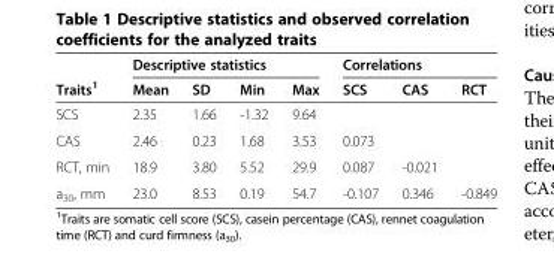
<table><thead><tr><td rowspan="2">Traits<sup>1</sup></td><td colspan="4">Descriptive statistics</td><td colspan="3">Correlations</td></tr><tr><td>Mean</td><td>SD</td><td>Min</td><td>Max</td><td>SCS</td><td>CAS</td><td>RCT</td></tr></thead><tbody><tr><td>SCS</td><td>2.35</td><td>1.66</td><td>-1.32</td><td>9.64</td><td></td><td></td><td></td></tr><tr><td>CAS</td><td>2.46</td><td>0.23</td><td>1.68</td><td>3.53</td><td>0.073</td><td></td><td></td></tr><tr><td>RCT, min</td><td>18.9</td><td>3.80</td><td>5.52</td><td>29.9</td><td>0.087</td><td>-0.021</td><td></td></tr><tr><td>a<sub>30</sub>, mm</td><td>23.0</td><td>8.53</td><td>0.19</td><td>54.7</td><td>-0.107</td><td>0.346</td><td>-0.849</td></tr></tbody></table>